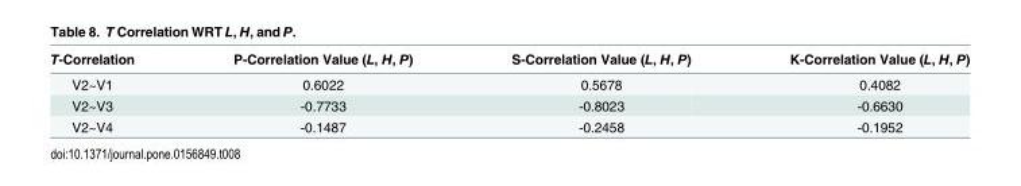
<table><thead><tr><td>T-Correlation</td><td>P-Correlation Value (L, H, P)</td><td>S-Correlation Value (L, H, P)</td><td>K-Correlation Value (L, H, P)</td></tr></thead><tbody><tr><td>V2~V1</td><td>0.6022</td><td>0.5678</td><td>0.4082</td></tr><tr><td>V2~V3</td><td>-0.7733</td><td>-0.8023</td><td>-0.6630</td></tr><tr><td>V2~V4</td><td>-0.1487</td><td>-0.2458</td><td>-0.1952</td></tr></tbody></table>